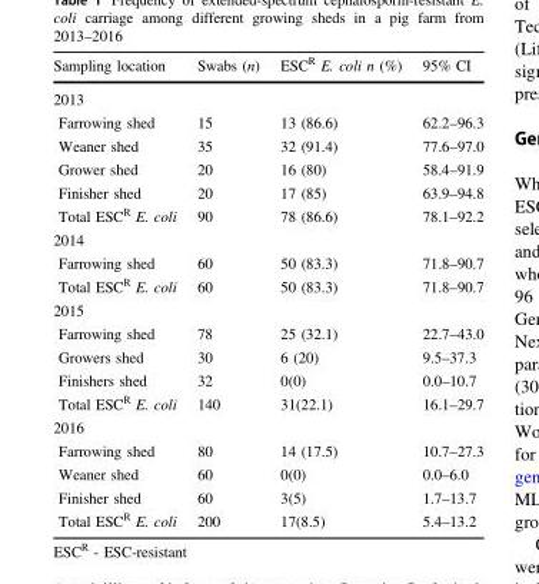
<table><thead><tr><td>Sampling location</td><td>Swabs (n)</td><td>ESC<sup>R</sup> E. coli n (%)</td><td>95% CI</td></tr></thead><tbody><tr><td colspan="4">2013</td></tr><tr><td>Farrowing shed</td><td>15</td><td>13 (86.6)</td><td>62.2–96.3</td></tr><tr><td>Weaner shed</td><td>35</td><td>32 (91.4)</td><td>77.6–97.0</td></tr><tr><td>Grower shed</td><td>20</td><td>16 (80)</td><td>58.4–91.9</td></tr><tr><td>Finisher shed</td><td>20</td><td>17 (85)</td><td>63.9–94.8</td></tr><tr><td>Total ESC<sup>R</sup> E. coli</td><td>90</td><td>78 (86.6)</td><td>78.1–92.2</td></tr><tr><td colspan="4">2014</td></tr><tr><td>Farrowing shed</td><td>60</td><td>50 (83.3)</td><td>71.8–90.7</td></tr><tr><td>Total ESC<sup>R</sup> E. coli</td><td>60</td><td>50 (83.3)</td><td>71.8–90.7</td></tr><tr><td colspan="4">2015</td></tr><tr><td>Farrowing shed</td><td>78</td><td>25 (32.1)</td><td>22.7–43.0</td></tr><tr><td>Growers shed</td><td>30</td><td>6 (20)</td><td>9.5–37.3</td></tr><tr><td>Finishers shed</td><td>32</td><td>0(0)</td><td>0.0–10.7</td></tr><tr><td>Total ESC<sup>R</sup> E. coli</td><td>140</td><td>31(22.1)</td><td>16.1–29.7</td></tr><tr><td colspan="4">2016</td></tr><tr><td>Farrowing shed</td><td>80</td><td>14 (17.5)</td><td>10.7–27.3</td></tr><tr><td>Weaner shed</td><td>60</td><td>0(0)</td><td>0.0–6.0</td></tr><tr><td>Finisher shed</td><td>60</td><td>3(5)</td><td>1.7–13.7</td></tr><tr><td>Total ESC<sup>R</sup> E. coli</td><td>200</td><td>17(8.5)</td><td>5.4–13.2</td></tr></tbody></table>